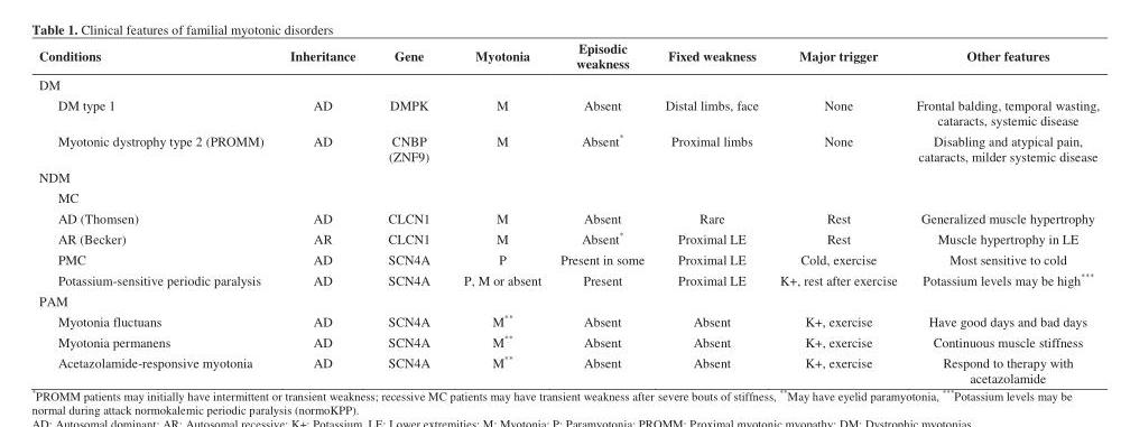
<table><thead><tr><td>Conditions</td><td>Inheritance</td><td>Gene</td><td>Myotonia</td><td>Episodic weakness</td><td>Fixed weakness</td><td>Major trigger</td><td>Other features</td></tr></thead><tbody><tr><td colspan="8">DM</td></tr><tr><td>DM type 1</td><td>AD</td><td>DMPK</td><td>M</td><td>Absent</td><td>Distal limbs, face</td><td>None</td><td>Frontal balding, temporal wasting, cataracts, systemic disease</td></tr><tr><td>Myotonic dystrophy type 2 (PROMM)</td><td>AD</td><td>CNBP (ZNF9)</td><td>M</td><td>Absent*</td><td>Proximal limbs</td><td>None</td><td>Disabling and atypical pain, cataracts, milder systemic disease</td></tr><tr><td colspan="8">NDM</td></tr><tr><td colspan="8">MC</td></tr><tr><td>AD (Thomsen)</td><td>AD</td><td>CLCN1</td><td>M</td><td>Absent</td><td>Rare</td><td>Rest</td><td>Generalized muscle hypertrophy</td></tr><tr><td>AR (Becker)</td><td>AR</td><td>CLCN1</td><td>M</td><td>Absent*</td><td>Proximal LE</td><td>Rest</td><td>Muscle hypertrophy in LE</td></tr><tr><td>PMC</td><td>AD</td><td>SCN4A</td><td>P</td><td>Present in some</td><td>Proximal LE</td><td>Cold, exercise</td><td>Most sensitive to cold</td></tr><tr><td>Potassium-sensitive periodic paralysis</td><td>AD</td><td>SCN4A</td><td>P, M or absent</td><td>Present</td><td>Proximal LE</td><td>K+, rest after exercise</td><td>Potassium levels may be high***</td></tr><tr><td colspan="8">PAM</td></tr><tr><td>Myotonia fluctuans</td><td>AD</td><td>SCN4A</td><td>M**</td><td>Absent</td><td>Absent</td><td>K+, exercise</td><td>Have good days and bad days</td></tr><tr><td>Myotonia permanens</td><td>AD</td><td>SCN4A</td><td>M**</td><td>Absent</td><td>Absent</td><td>K+, exercise</td><td>Continuous muscle stiffness</td></tr><tr><td>Acetazolamide-responsive myotonia</td><td>AD</td><td>SCN4A</td><td>M**</td><td>Absent</td><td>Absent</td><td>K+, exercise</td><td>Respond to therapy with acetazolamide</td></tr></tbody></table>